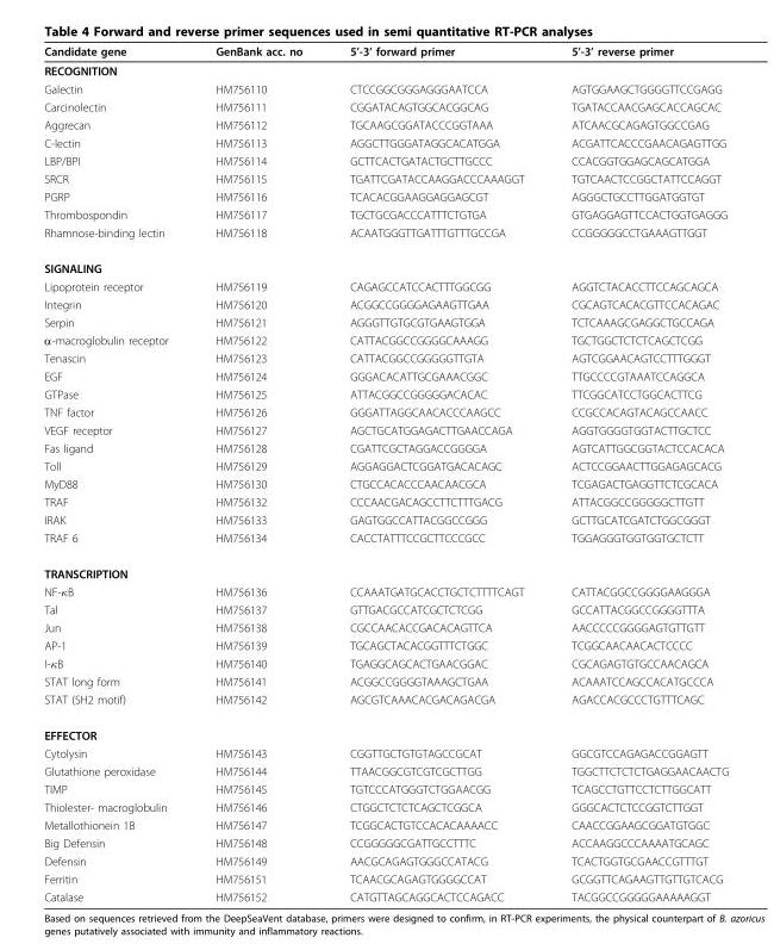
<table><thead><tr><td>Candidate gene</td><td>GenBank acc. no</td><td>5’-3’ forward primer</td><td>5’-3’ reverse primer</td></tr></thead><tbody><tr><td colspan="4">RECOGNITION</td></tr><tr><td>Galectin</td><td>HM756110</td><td>CTCCGGCGGGAGGGAATCCA</td><td>AGTGGAAGCTGGGGTTCCGAGG</td></tr><tr><td>Carcinolectin</td><td>HM756111</td><td>CGGATACAGTGGCACGGCAG</td><td>TGATACCAACGAGCACCAGCAC</td></tr><tr><td>Aggrecan</td><td>HM756112</td><td>TGCAAGCGGATACCCGGTAAA</td><td>ATCAACGCAGAGTGGCCGAG</td></tr><tr><td>C-lectin</td><td>HM756113</td><td>AGGCTTGGGATAGGCACATGGA</td><td>ACGATTCACCCGAACAGAGTTGG</td></tr><tr><td>LBP/BPI</td><td>HM756114</td><td>GCTTCACTGATACTGCTTGCCC</td><td>CCACGGTGGAGCAGCATGGA</td></tr><tr><td>SRCR</td><td>HM756115</td><td>TGATTCGATACCAAGGACCCAAAGGT</td><td>TGTCAACTCCGGCTATTCCAGGT</td></tr><tr><td>PGRP</td><td>HM756116</td><td>TCACACGGAAGGAGGAGCGT</td><td>AGGGCTGCCTTGGATGGTGT</td></tr><tr><td>Thrombospondin</td><td>HM756117</td><td>TGCTGCGACCCATTTCTGTGA</td><td>GTGAGGAGTTCCACTGGTGAGGG</td></tr><tr><td>Rhamnose-binding lectin</td><td>HM756118</td><td>ACAATGGGTTGATTTGTTTGCCGA</td><td>CCGGGGGCCTGAAAGTTGGT</td></tr><tr><td colspan="4">SIGNALING</td></tr><tr><td>Lipoprotein receptor</td><td>HM756119</td><td>CAGAGCCATCCACTTTGGCGG</td><td>AGGTCTACACCTTCCAGCAGCA</td></tr><tr><td>Integrin</td><td>HM756120</td><td>ACGGCCGGGGAGAAGTTGAA</td><td>CGCAGTCACACGTTCCACAGAC</td></tr><tr><td>Serpin</td><td>HM756121</td><td>AGGGTTGTGCGTGAAGTGGA</td><td>TCTCAAAGCGAGGCTGCCAGA</td></tr><tr><td>α-macroglobulin receptor</td><td>HM756122</td><td>CATTACGGCCGGGGCAAAGG</td><td>TGCTGGCTCTCTCAGCTCGG</td></tr><tr><td>Tenascin</td><td>HM756123</td><td>CATTACGGCCGGGGGTTGTA</td><td>AGTCGGAACAGTCCTTTGGGT</td></tr><tr><td>EGF</td><td>HM756124</td><td>GGGACACATTGCGAAACGGC</td><td>TTGCCCCGTAAATCCAGGCA</td></tr><tr><td>GTPase</td><td>HM756125</td><td>ATTACGGCCGGGGGACACAC</td><td>TTCGGCATCCTGGCACTTCG</td></tr><tr><td>TNF factor</td><td>HM756126</td><td>GGGATTAGGCAACACCCAAGCC</td><td>CCGCCACAGTACAGCCAACC</td></tr><tr><td>VEGF receptor</td><td>HM756127</td><td>AGCTGCATGGAGACTTGAACCAGA</td><td>AGGTGGGGTGGTACTTGCTCC</td></tr><tr><td>Fas ligand</td><td>HM756128</td><td>CGATTCGCTAGGACCGGGGA</td><td>AGTCATTGGCGGTACTCCACACA</td></tr><tr><td>Toll</td><td>HM756129</td><td>AGGAGGACTCGGATGACACAGC</td><td>ACTCCGGAACTTGGAGAGCACG</td></tr><tr><td>MyD88</td><td>HM756130</td><td>CTGCCACACCCAACAACGCA</td><td>TCGAGACTGAGGTTCTCGCACA</td></tr><tr><td>TRAF</td><td>HM756132</td><td>CCCAACGACAGCCTTCTTTGACG</td><td>ATTACGGCCGGGGGCTTGTT</td></tr><tr><td>IRAK</td><td>HM756133</td><td>GAGTGGCCATTACGGCCGGG</td><td>GCTTGCATCGATCTGGCGGGT</td></tr><tr><td>TRAF 6</td><td>HM756134</td><td>CACCTATTTCCGCTTCCCGCC</td><td>TGGAGGGTGGTGGTGCTCTT</td></tr><tr><td colspan="4">TRANSCRIPTION</td></tr><tr><td>NF-κB</td><td>HM756136</td><td>CCAAATGATGCACCTGCTCTTTTCAGT</td><td>CATTACGGCCGGGGAAGGGA</td></tr><tr><td>Tal</td><td>HM756137</td><td>GTTGACGCCATCGCTCTCGG</td><td>GCCATTACGGCCGGGGTTTA</td></tr><tr><td>Jun</td><td>HM756138</td><td>CGCCAACACCGACACAGTTCA</td><td>AACCCCCGGGGAGTGTTGTT</td></tr><tr><td>AP-1</td><td>HM756139</td><td>TGCAGCTACACGGTTTCTGGC</td><td>TCGGCAACAACACTCCCC</td></tr><tr><td>I-κB</td><td>HM756140</td><td>TGAGGCAGCACTGAACGGAC</td><td>CGCAGAGTGTGCCAACAGCA</td></tr><tr><td>STAT long form</td><td>HM756141</td><td>ACGGCCGGGGTAAAGCTGAA</td><td>ACAAATCCAGCCACATGCCCA</td></tr><tr><td>STAT (SH2 motif)</td><td>HM756142</td><td>AGCGTCAAACACGACAGACGA</td><td>AGACCACGCCCTGTTTCAGC</td></tr><tr><td colspan="4">EFFECTOR</td></tr><tr><td>Cytolysin</td><td>HM756143</td><td>CGGTTGCTGTGTAGCCGCAT</td><td>GGCGTCCAGAGACCGGAGTT</td></tr><tr><td>Glutathione peroxidase</td><td>HM756144</td><td>TTAACGGCGTCGTCGCTTGG</td><td>TGGCTTCTCTCTGAGGAACAACTG</td></tr><tr><td>TIMP</td><td>HM756145</td><td>TGTCCCATGGGTCTGGAACGG</td><td>TCAGCCTGTTCCTCTTGGCATT</td></tr><tr><td>Thiolester- macroglobulin</td><td>HM756146</td><td>CTGGCTCTCTCAGCTCGGCA</td><td>GGGCACTCTCCGGTCTTGGT</td></tr><tr><td>Metallothionein 1B</td><td>HM756147</td><td>TCGGCACTGTCCACACAAAACC</td><td>CAACCGGAAGCGGATGTGGC</td></tr><tr><td>Big Defensin</td><td>HM756148</td><td>CCGGGGGCGATTGCCTTTC</td><td>ACCAAGGCCCAAAATGCAGC</td></tr><tr><td>Defensin</td><td>HM756149</td><td>AACGCAGAGTGGGCCATACG</td><td>TCACTGGTGCGAACCGTTTGT</td></tr><tr><td>Ferritin</td><td>HM756151</td><td>TCAACGCAGAGTGGGGCCAT</td><td>GCGGTTCAGAAGTTGTTGTCACG</td></tr><tr><td>Catalase</td><td>HM756152</td><td>CATGTTAGCAGGCACTCCAGACC</td><td>TACGGCCGGGGGAAAAAGGT</td></tr></tbody></table>